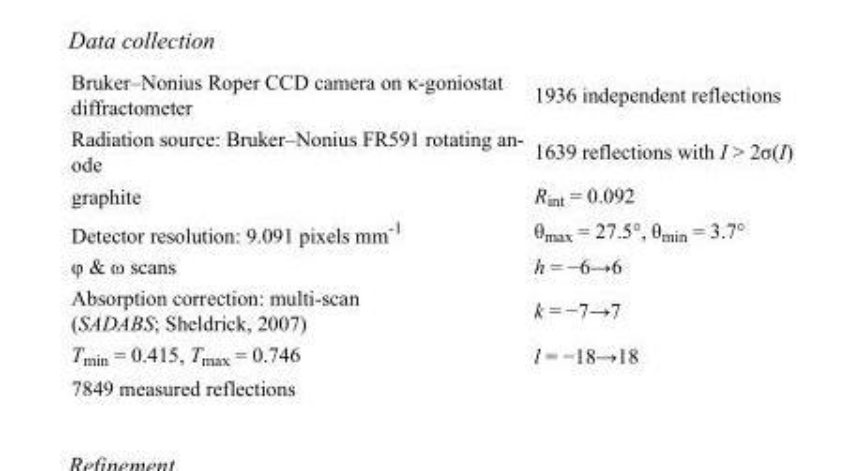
<table><tbody><tr><td>Bruker–Nonius Roper CCD camera on κ-goniostat diffractometer</td><td>1936 independent reflections</td></tr><tr><td>Radiation source: Bruker–Nonius FR591 rotating an- ode</td><td>1639 reflections with I &gt; 2σ(I)</td></tr><tr><td>graphite</td><td>R<sub>int</sub> = 0.092</td></tr><tr><td>Detector resolution: 9.091 pixels mm<sup>-1</sup></td><td>θ<sub>max</sub> = 27.5°, θ<sub>min</sub> = 3.7°</td></tr><tr><td>φ &amp; ω scans</td><td>h = −6→6</td></tr><tr><td>Absorption correction: multi-scan (SADABS; Sheldrick, 2007)</td><td>k = −7→7</td></tr><tr><td>T<sub>min</sub> = 0.415, T<sub>max</sub> = 0.746</td><td>l = −18→18</td></tr><tr><td>7849 measured reflections</td><td></td></tr></tbody></table>